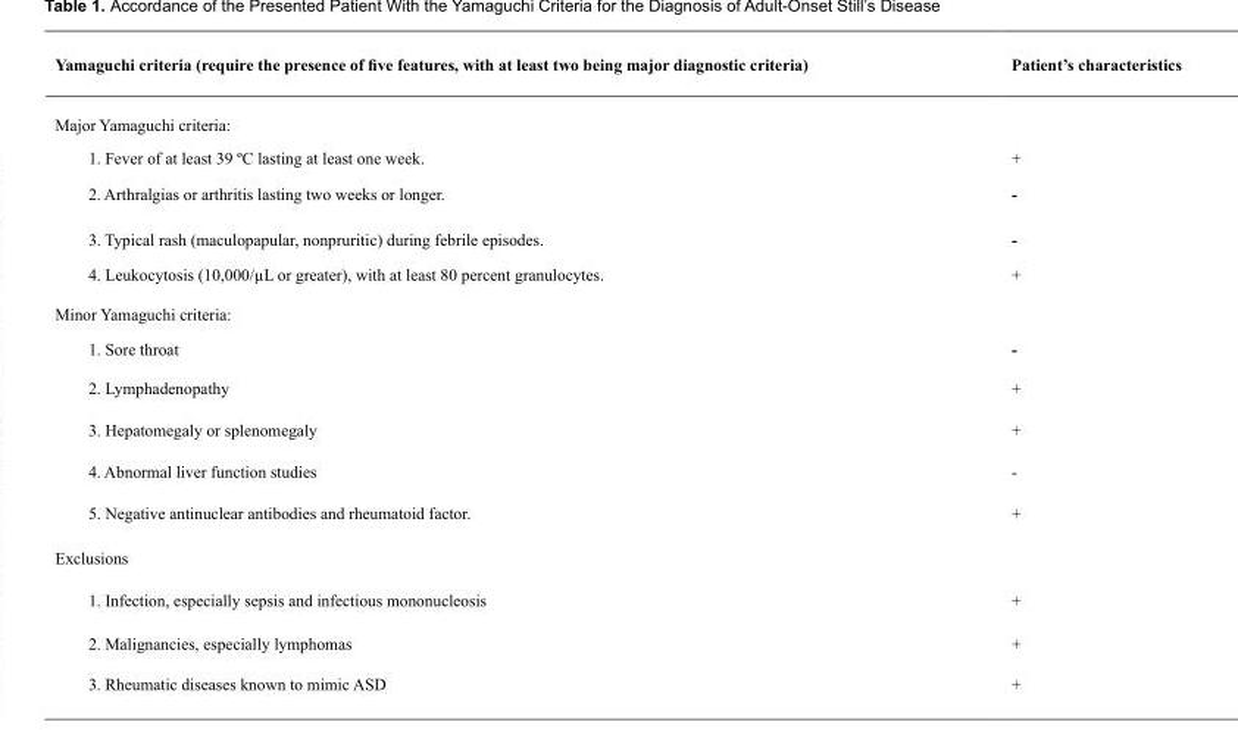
<table><thead><tr><td>Yamaguchi criteria (require the presence of five features, with at least two being major diagnostic criteria)</td><td>Patient’s characteristics</td></tr></thead><tbody><tr><td colspan="2">Major Yamaguchi criteria:</td></tr><tr><td>1. Fever of at least 39 ºC lasting at least one week.</td><td>+</td></tr><tr><td>2. Arthralgias or arthritis lasting two weeks or longer.</td><td>-</td></tr><tr><td>3. Typical rash (maculopapular, nonpruritic) during febrile episodes.</td><td>-</td></tr><tr><td>4. Leukocytosis (10,000/µL or greater), with at least 80 percent granulocytes.</td><td>+</td></tr><tr><td colspan="2">Minor Yamaguchi criteria:</td></tr><tr><td>1. Sore throat</td><td>-</td></tr><tr><td>2. Lymphadenopathy</td><td>+</td></tr><tr><td>3. Hepatomegaly or splenomegaly</td><td>+</td></tr><tr><td>4. Abnormal liver function studies</td><td>-</td></tr><tr><td>5. Negative antinuclear antibodies and rheumatoid factor.</td><td>+</td></tr><tr><td colspan="2">Exclusions</td></tr><tr><td>1. Infection, especially sepsis and infectious mononucleosis</td><td>+</td></tr><tr><td>2. Malignancies, especially lymphomas</td><td>+</td></tr><tr><td>3. Rheumatic diseases known to mimic ASD</td><td>+</td></tr></tbody></table>